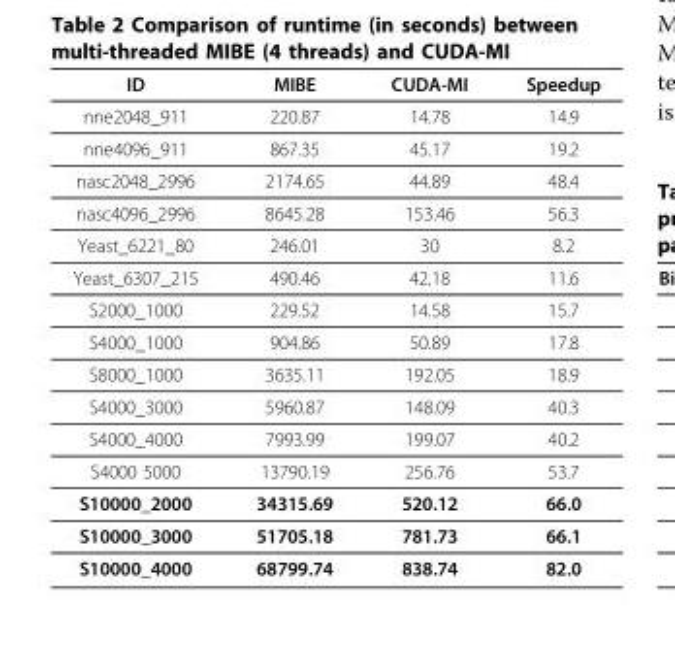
<table><thead><tr><td>ID</td><td>MIBE</td><td>CUDA-MI</td><td>Speedup</td></tr></thead><tbody><tr><td>nne2048_911</td><td>220.87</td><td>14.78</td><td>14.9</td></tr><tr><td>nne4096_911</td><td>867.35</td><td>45.17</td><td>19.2</td></tr><tr><td>nasc2048_2996</td><td>2174.65</td><td>44.89</td><td>48.4</td></tr><tr><td>nasc4096_2996</td><td>8645.28</td><td>153.46</td><td>56.3</td></tr><tr><td>Yeast_6221_80</td><td>246.01</td><td>30</td><td>8.2</td></tr><tr><td>Yeast_6307_215</td><td>490.46</td><td>42.18</td><td>11.6</td></tr><tr><td>S2000_1000</td><td>229.52</td><td>14.58</td><td>15.7</td></tr><tr><td>S4000_1000</td><td>904.86</td><td>50.89</td><td>17.8</td></tr><tr><td>S8000_1000</td><td>3635.11</td><td>192.05</td><td>18.9</td></tr><tr><td>S4000_3000</td><td>5960.87</td><td>148.09</td><td>40.3</td></tr><tr><td>S4000_4000</td><td>7993.99</td><td>199.07</td><td>40.2</td></tr><tr><td>S4000 5000</td><td>13790.19</td><td>256.76</td><td>53.7</td></tr><tr><td>S10000_2000</td><td>34315.69</td><td>520.12</td><td>66.0</td></tr><tr><td>S10000_3000</td><td>51705.18</td><td>781.73</td><td>66.1</td></tr><tr><td>S10000_4000</td><td>68799.74</td><td>838.74</td><td>82.0</td></tr></tbody></table>